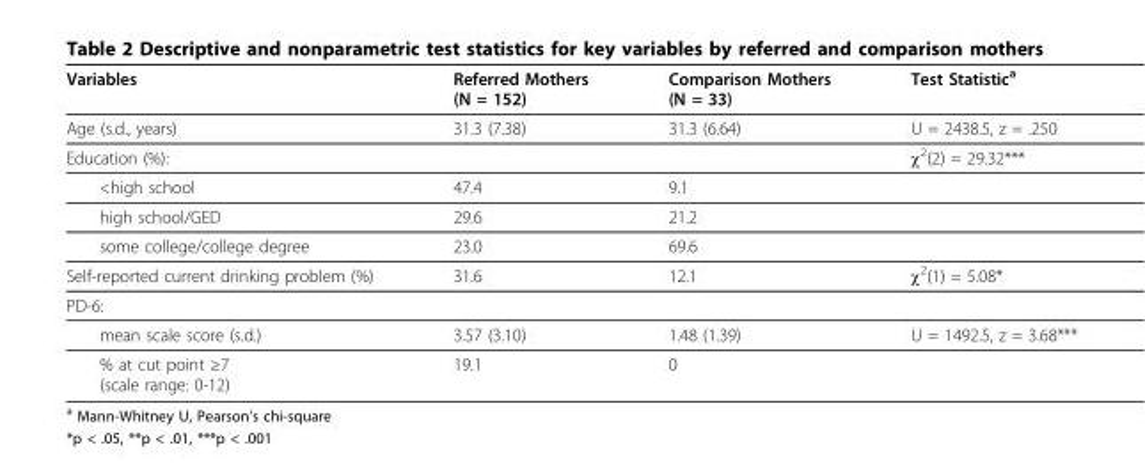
<table><thead><tr><td>Variables</td><td>Referred Mothers (N = 152)</td><td>Comparison Mothers (N = 33)</td><td>Test Statistic<sup>a</sup></td></tr></thead><tbody><tr><td>Age (s.d., years)</td><td>31.3 (7.38)</td><td>31.3 (6.64)</td><td>U = 2438.5, z = .250</td></tr><tr><td>Education (%):</td><td></td><td></td><td>χ<sup>2</sup>(2) = 29.32***</td></tr><tr><td>&lt;high school</td><td>47.4</td><td>9.1</td><td></td></tr><tr><td>high school/GED</td><td>29.6</td><td>21.2</td><td></td></tr><tr><td>some college/college degree</td><td>23.0</td><td>69.6</td><td></td></tr><tr><td>Self-reported current drinking problem (%)</td><td>31.6</td><td>12.1</td><td>χ<sup>2</sup>(1) = 5.08*</td></tr><tr><td colspan="4">PD-6:</td></tr><tr><td>mean scale score (s.d.)</td><td>3.57 (3.10)</td><td>1.48 (1.39)</td><td>U = 1492.5, z = 3.68***</td></tr><tr><td>% at cut point ≥7 (scale range: 0-12)</td><td>19.1</td><td>0</td><td></td></tr></tbody></table>